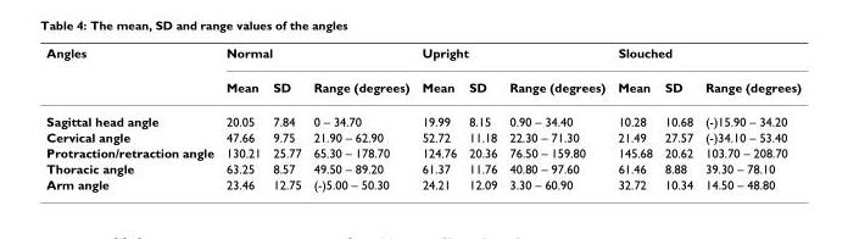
<table><thead><tr><td rowspan="2">Angles</td><td colspan="3">Normal</td><td colspan="3">Upright</td><td colspan="3">Slouched</td></tr><tr><td>Mean</td><td>SD</td><td>Range (degrees)</td><td>Mean</td><td>SD</td><td>Range (degrees)</td><td>Mean</td><td>SD</td><td>Range (degrees)</td></tr></thead><tbody><tr><td>Sagittal head angle</td><td>20.05</td><td>7.84</td><td>0 – 34.70</td><td>19.99</td><td>8.15</td><td>0.90 – 34.40</td><td>10.28</td><td>10.68</td><td>(-)15.90 – 34.20</td></tr><tr><td>Cervical angle</td><td>47.66</td><td>9.75</td><td>21.90 – 62.90</td><td>52.72</td><td>11.18</td><td>22.30 – 71.30</td><td>21.49</td><td>27.57</td><td>(-)34.10 – 53.40</td></tr><tr><td>Protraction/retraction angle</td><td>130.21</td><td>25.77</td><td>65.30 – 178.70</td><td>124.76</td><td>20.36</td><td>76.50 – 159.80</td><td>145.68</td><td>20.62</td><td>103.70 – 208.70</td></tr><tr><td>Thoracic angle</td><td>63.25</td><td>8.57</td><td>49.50 – 89.20</td><td>61.37</td><td>11.76</td><td>40.80 – 97.60</td><td>61.46</td><td>8.88</td><td>39.30 – 78.10</td></tr><tr><td>Arm angle</td><td>23.46</td><td>12.75</td><td>(-)5.00 – 50.30</td><td>24.21</td><td>12.09</td><td>3.30 – 60.90</td><td>32.72</td><td>10.34</td><td>14.50 – 48.80</td></tr></tbody></table>